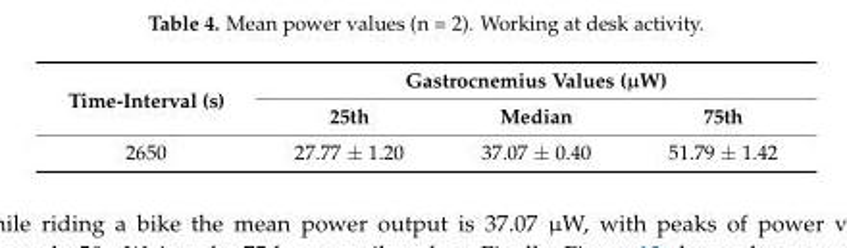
<table><thead><tr><td rowspan="2">Time-Interval (s)</td><td colspan="3">Gastrocnemius Values (µW)</td></tr><tr><td>25th</td><td>Median</td><td>75th</td></tr></thead><tbody><tr><td>2650</td><td>27.77 ± 1.20</td><td>37.07 ± 0.40</td><td>51.79 ± 1.42</td></tr></tbody></table>